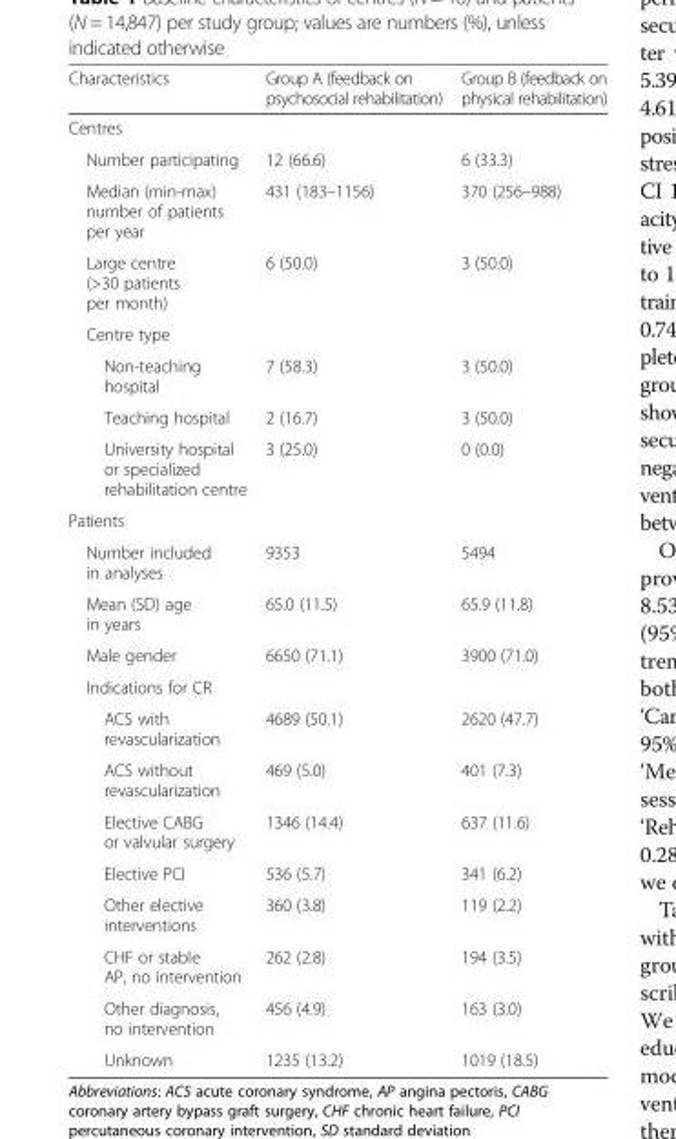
<table><thead><tr><td>Characteristics</td><td>Group A (feedback on psychosocial rehabilitation)</td><td>Group B (feedback on physical rehabilitation)</td></tr></thead><tbody><tr><td colspan="3">Centres</td></tr><tr><td>Number participating</td><td>12 (66.6)</td><td>6 (33.3)</td></tr><tr><td>Median (min-max) number of patients per year</td><td>431 (183–1156)</td><td>370 (256–988)</td></tr><tr><td>Large centre (&gt;30 patients per month)</td><td>6 (50.0)</td><td>3 (50.0)</td></tr><tr><td colspan="3">Centre type</td></tr><tr><td>Non-teaching hospital</td><td>7 (58.3)</td><td>3 (50.0)</td></tr><tr><td>Teaching hospital</td><td>2 (16.7)</td><td>3 (50.0)</td></tr><tr><td>University hospital or specialized rehabilitation centre</td><td>3 (25.0)</td><td>0 (0.0)</td></tr><tr><td colspan="3">Patients</td></tr><tr><td>Number included in analyses</td><td>9353</td><td>5494</td></tr><tr><td>Mean (SD) age in years</td><td>65.0 (11.5)</td><td>65.9 (11.8)</td></tr><tr><td>Male gender</td><td>6650 (71.1)</td><td>3900 (71.0)</td></tr><tr><td colspan="3">Indications for CR</td></tr><tr><td>ACS with revascularization</td><td>4689 (50.1)</td><td>2620 (47.7)</td></tr><tr><td>ACS without revascularization</td><td>469 (5.0)</td><td>401 (7.3)</td></tr><tr><td>Elective CABG or valvular surgery</td><td>1346 (14.4)</td><td>637 (11.6)</td></tr><tr><td>Elective PCI</td><td>536 (5.7)</td><td>341 (6.2)</td></tr><tr><td>Other elective interventions</td><td>360 (3.8)</td><td>119 (2.2)</td></tr><tr><td>CHF or stable AP, no intervention</td><td>262 (2.8)</td><td>194 (3.5)</td></tr><tr><td>Other diagnosis, no intervention</td><td>456 (4.9)</td><td>163 (3.0)</td></tr><tr><td>Unknown</td><td>1235 (13.2)</td><td>1019 (18.5)</td></tr></tbody></table>